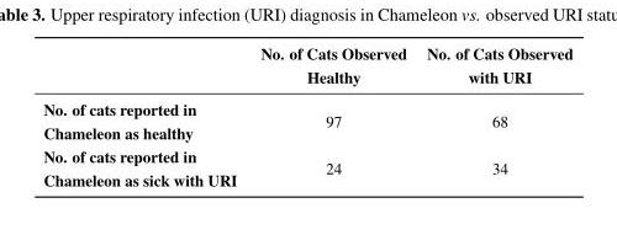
<table><thead><tr><td></td><td>No. of Cats Observed Healthy</td><td>No. of Cats Observed with URI</td></tr></thead><tbody><tr><td>No. of cats reported in Chameleon as healthy</td><td>97</td><td>68</td></tr><tr><td>No. of cats reported in Chameleon as sick with URI</td><td>24</td><td>34</td></tr></tbody></table>